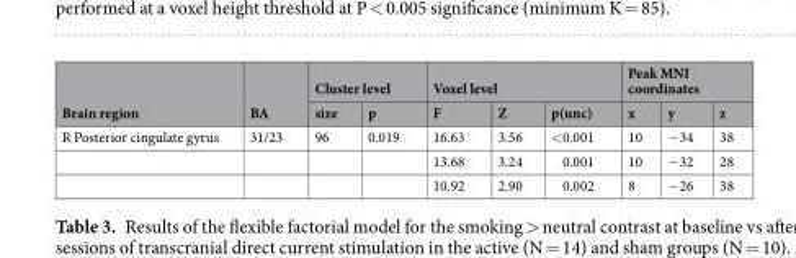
<table><thead><tr><td rowspan="2">Brain region</td><td rowspan="2">BA</td><td colspan="2">Cluster level</td><td colspan="3">Voxel level</td><td colspan="3">Peak MNI coordinates</td></tr><tr><td>size</td><td>p</td><td>F</td><td>Z</td><td>p(unc)</td><td>x</td><td>y</td><td>z</td></tr></thead><tbody><tr><td rowspan="3">R Posterior cingulate gyrus</td><td>31/23</td><td>96</td><td>0.019</td><td>16.63</td><td>3.56</td><td>&lt;0.001</td><td>10</td><td>−34</td><td>38</td></tr><tr><td></td><td></td><td></td><td>13.68</td><td>3.24</td><td>0.001</td><td>10</td><td>−32</td><td>28</td></tr><tr><td></td><td></td><td></td><td>10.92</td><td>2.90</td><td>0.002</td><td>8</td><td>−26</td><td>38</td></tr></tbody></table>